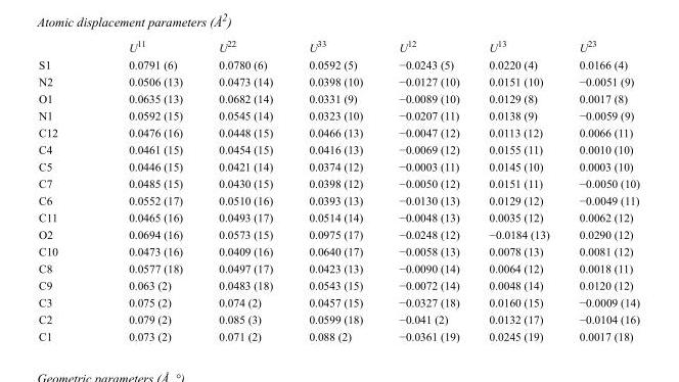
<table><thead><tr><td></td><td>U<sup>11</sup></td><td>U<sup>22</sup></td><td>U<sup>33</sup></td><td>U<sup>12</sup></td><td>U<sup>13</sup></td><td>U<sup>23</sup></td></tr></thead><tbody><tr><td>S1</td><td>0.0791 (6)</td><td>0.0780 (6)</td><td>0.0592 (5)</td><td>−0.0243 (5)</td><td>0.0220 (4)</td><td>0.0166 (4)</td></tr><tr><td>N2</td><td>0.0506 (13)</td><td>0.0473 (14)</td><td>0.0398 (10)</td><td>−0.0127 (10)</td><td>0.0151 (10)</td><td>−0.0051 (9)</td></tr><tr><td>O1</td><td>0.0635 (13)</td><td>0.0682 (14)</td><td>0.0331 (9)</td><td>−0.0089 (10)</td><td>0.0129 (8)</td><td>0.0017 (8)</td></tr><tr><td>N1</td><td>0.0592 (15)</td><td>0.0545 (14)</td><td>0.0323 (10)</td><td>−0.0207 (11)</td><td>0.0138 (9)</td><td>−0.0059 (9)</td></tr><tr><td>C12</td><td>0.0476 (16)</td><td>0.0448 (15)</td><td>0.0466 (13)</td><td>−0.0047 (12)</td><td>0.0113 (12)</td><td>0.0066 (11)</td></tr><tr><td>C4</td><td>0.0461 (15)</td><td>0.0454 (15)</td><td>0.0416 (13)</td><td>−0.0069 (12)</td><td>0.0155 (11)</td><td>0.0010 (10)</td></tr><tr><td>C5</td><td>0.0446 (15)</td><td>0.0421 (14)</td><td>0.0374 (12)</td><td>−0.0003 (11)</td><td>0.0145 (10)</td><td>0.0003 (10)</td></tr><tr><td>C7</td><td>0.0485 (15)</td><td>0.0430 (15)</td><td>0.0398 (12)</td><td>−0.0050 (12)</td><td>0.0151 (11)</td><td>−0.0050 (10)</td></tr><tr><td>C6</td><td>0.0552 (17)</td><td>0.0510 (16)</td><td>0.0393 (13)</td><td>−0.0130 (13)</td><td>0.0129 (12)</td><td>−0.0049 (11)</td></tr><tr><td>C11</td><td>0.0465 (16)</td><td>0.0493 (17)</td><td>0.0514 (14)</td><td>−0.0048 (13)</td><td>0.0035 (12)</td><td>0.0062 (12)</td></tr><tr><td>O2</td><td>0.0694 (16)</td><td>0.0573 (15)</td><td>0.0975 (17)</td><td>−0.0248 (12)</td><td>−0.0184 (13)</td><td>0.0290 (12)</td></tr><tr><td>C10</td><td>0.0473 (16)</td><td>0.0409 (16)</td><td>0.0640 (17)</td><td>−0.0058 (13)</td><td>0.0078 (13)</td><td>0.0081 (12)</td></tr><tr><td>C8</td><td>0.0577 (18)</td><td>0.0497 (17)</td><td>0.0423 (13)</td><td>−0.0090 (14)</td><td>0.0064 (12)</td><td>0.0018 (11)</td></tr><tr><td>C9</td><td>0.063 (2)</td><td>0.0483 (18)</td><td>0.0543 (15)</td><td>−0.0072 (14)</td><td>0.0048 (14)</td><td>0.0120 (12)</td></tr><tr><td>C3</td><td>0.075 (2)</td><td>0.074 (2)</td><td>0.0457 (15)</td><td>−0.0327 (18)</td><td>0.0160 (15)</td><td>−0.0009 (14)</td></tr><tr><td>C2</td><td>0.079 (2)</td><td>0.085 (3)</td><td>0.0599 (18)</td><td>−0.041 (2)</td><td>0.0132 (17)</td><td>−0.0104 (16)</td></tr><tr><td>C1</td><td>0.073 (2)</td><td>0.071 (2)</td><td>0.088 (2)</td><td>−0.0361 (19)</td><td>0.0245 (19)</td><td>0.0017 (18)</td></tr></tbody></table>